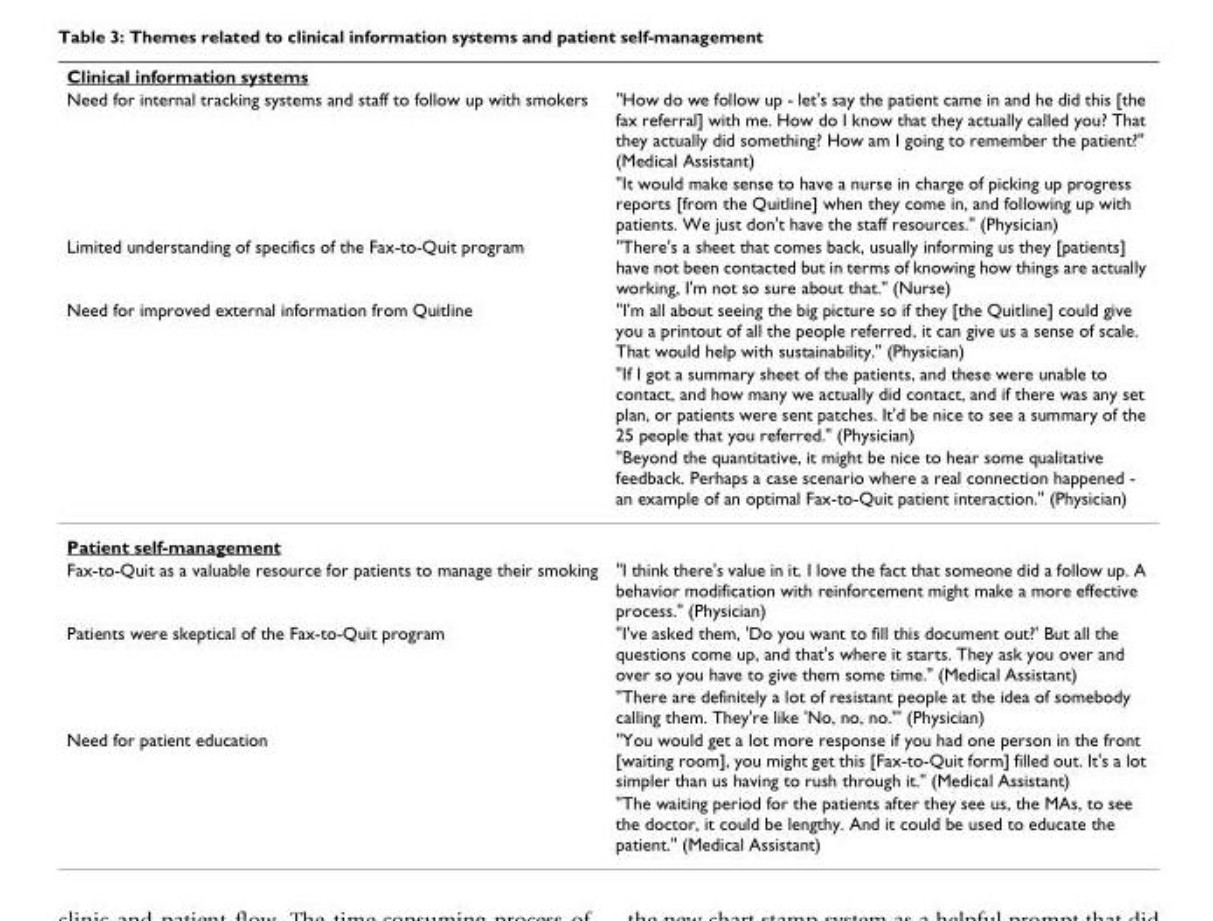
<table><thead><tr><td rowspan="7">Clinical information systems Need for internal tracking systems and staff to follow up with smokers Limited understanding of specifics of the Fax-to-Quit program Need for improved external information from Quitline</td><td rowspan="7">&quot;How do we follow up - let&#x27;s say the patient came in and he did this [the fax referral] with me. How do I know that they actually called you? That they actually did something? How am I going to remember the patient?&quot; (Medical Assistant) &quot;It would make sense to have a nurse in charge of picking up progress reports [from the Quitline] when they come in, and following up with patients. We just don&#x27;t have the staff resources.&quot; (Physician) &quot;There&#x27;s a sheet that comes back, usually informing us they [patients] have not been contacted but in terms of knowing how things are actually working, I&#x27;m not so sure about that.&quot; (Nurse) &quot;I&#x27;m all about seeing the big picture so if they [the Quitline] could give you a printout of all the people referred, it can give us a sense of scale. That would help with sustainability.&quot; (Physician) &quot;If I got a summary sheet of the patients, and these were unable to contact, and how many we actually did contact, and if there was any set plan, or patients were sent patches. It&#x27;d be nice to see a summary of the 25 people that you referred.&quot; (Physician) &quot;Beyond the quantitative, it might be nice to hear some qualitative feedback. Perhaps a case scenario where a real connection happened - an example of an optimal Fax-to-Quit patient interaction.&quot; (Physician)</td></tr><tr></tr><tr></tr><tr></tr><tr></tr><tr></tr><tr></tr></thead><tbody><tr><td colspan="2">Patient self-management</td></tr><tr><td>Fax-to-Quit as a valuable resource for patients to manage their smoking</td><td>&quot;I think there&#x27;s value in it. I love the fact that someone did a follow up. A behavior modification with reinforcement might make a more effective process.&quot; (Physician)</td></tr><tr><td rowspan="2">Patients were skeptical of the Fax-to-Quit program</td><td>&quot;I&#x27;ve asked them, &#x27;Do you want to fill this document out?&#x27; But all the questions come up, and that&#x27;s where it starts. They ask you over and over so you have to give them some time.&quot; (Medical Assistant)</td></tr><tr><td>&quot;There are definitely a lot of resistant people at the idea of somebody calling them. They&#x27;re like &#x27;No, no, no.&quot;&#x27; (Physician)</td></tr><tr><td rowspan="2">Need for patient education</td><td>&quot;You would get a lot more response if you had one person in the front [waiting room], you might get this [Fax-to-Quit form] filled out. It&#x27;s a lot simpler than us having to rush through it.&quot; (Medical Assistant)</td></tr><tr><td>&quot;The waiting period for the patients after they see us, the MAs, to see the doctor, it could be lengthy. And it could be used to educate the patient.&quot; (Medical Assistant)</td></tr></tbody></table>